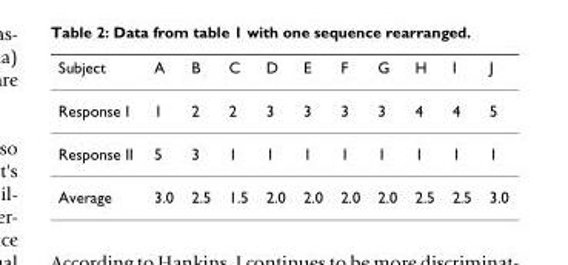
<table><thead><tr><td>Subject</td><td>A</td><td>B</td><td>C</td><td>D</td><td>E</td><td>F</td><td>G</td><td>H</td><td>I</td><td>J</td></tr></thead><tbody><tr><td>Response I</td><td>1</td><td>2</td><td>2</td><td>3</td><td>3</td><td>3</td><td>3</td><td>4</td><td>4</td><td>5</td></tr><tr><td>Response II</td><td>5</td><td>3</td><td>1</td><td>1</td><td>1</td><td>1</td><td>1</td><td>1</td><td>1</td><td>1</td></tr><tr><td>Average</td><td>3.0</td><td>2.5</td><td>1.5</td><td>2.0</td><td>2.0</td><td>2.0</td><td>2.0</td><td>2.5</td><td>2.5</td><td>3.0</td></tr></tbody></table>